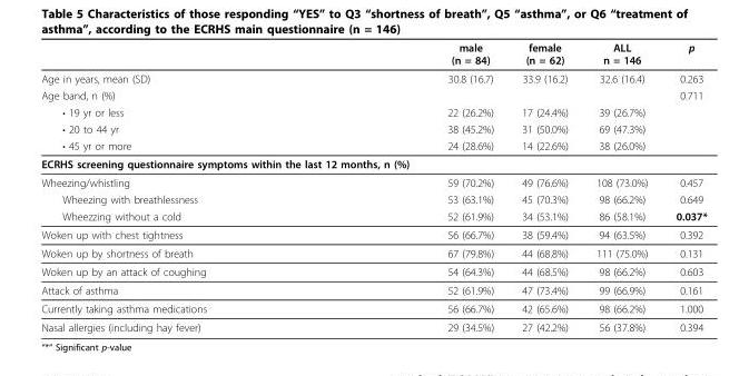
<table><thead><tr><td></td><td>male (n = 84)</td><td>female (n = 62)</td><td>ALL n = 146</td><td>p</td></tr></thead><tbody><tr><td>Age in years, mean (SD)</td><td>30.8 (16.7)</td><td>33.9 (16.2)</td><td>32.6 (16.4)</td><td>0.263</td></tr><tr><td>Age band, n (%)</td><td></td><td></td><td></td><td>0.711</td></tr><tr><td>• 19 yr or less</td><td>22 (26.2%)</td><td>17 (24.4%)</td><td>39 (26.7%)</td><td></td></tr><tr><td>• 20 to 44 yr</td><td>38 (45.2%)</td><td>31 (50.0%)</td><td>69 (47.3%)</td><td></td></tr><tr><td>• 45 yr or more</td><td>24 (28.6%)</td><td>14 (22.6%)</td><td>38 (26.0%)</td><td></td></tr><tr><td colspan="5">ECRHS screening questionnaire symptoms within the last 12 months, n (%)</td></tr><tr><td>Wheezing/whistling</td><td>59 (70.2%)</td><td>49 (76.6%)</td><td>108 (73.0%)</td><td>0.457</td></tr><tr><td>Wheezing with breathlessness</td><td>53 (63.1%)</td><td>45 (70.3%)</td><td>98 (66.2%)</td><td>0.649</td></tr><tr><td>Wheezzing without a cold</td><td>52 (61.9%)</td><td>34 (53.1%)</td><td>86 (58.1%)</td><td>0.037*</td></tr><tr><td>Woken up with chest tightness</td><td>56 (66.7%)</td><td>38 (59.4%)</td><td>94 (63.5%)</td><td>0.392</td></tr><tr><td>Woken up by shortness of breath</td><td>67 (79.8%)</td><td>44 (68.8%)</td><td>111 (75.0%)</td><td>0.131</td></tr><tr><td>Woken up by an attack of coughing</td><td>54 (64.3%)</td><td>44 (68.5%)</td><td>98 (66.2%)</td><td>0.603</td></tr><tr><td>Attack of asthma</td><td>52 (61.9%)</td><td>47 (73.4%)</td><td>99 (66.9%)</td><td>0.161</td></tr><tr><td>Currently taking asthma medications</td><td>56 (66.7%)</td><td>42 (65.6%)</td><td>98 (66.2%)</td><td>1.000</td></tr><tr><td>Nasal allergies (including hay fever)</td><td>29 (34.5%)</td><td>27 (42.2%)</td><td>56 (37.8%)</td><td>0.394</td></tr></tbody></table>